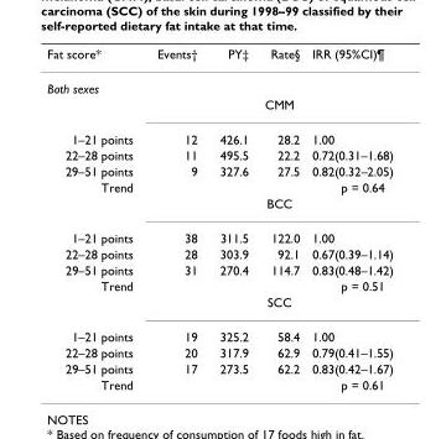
<table><thead><tr><td>Fat score*</td><td>Events†</td><td>PY‡</td><td>Rate§</td><td>IRR (95%CI)¶</td></tr></thead><tbody><tr><td colspan="5">Both sexes</td></tr><tr><td></td><td colspan="4">CMM</td></tr><tr><td>1–21 points</td><td>12</td><td>426.1</td><td>28.2</td><td>1.00</td></tr><tr><td>22–28 points</td><td>11</td><td>495.5</td><td>22.2</td><td>0.72(0.31–1.68)</td></tr><tr><td>29–51 points</td><td>9</td><td>327.6</td><td>27.5</td><td>0.82(0.32–2.05)</td></tr><tr><td rowspan="2">Trend</td><td></td><td></td><td></td><td>p = 0.64</td></tr><tr><td colspan="4">BCC</td></tr><tr><td>1–21 points</td><td>38</td><td>311.5</td><td>122.0</td><td>1.00</td></tr><tr><td>22–28 points</td><td>28</td><td>303.9</td><td>92.1</td><td>0.67(0.39–1.14)</td></tr><tr><td>29–51 points</td><td>31</td><td>270.4</td><td>114.7</td><td>0.83(0.48–1.42)</td></tr><tr><td rowspan="2">Trend</td><td></td><td></td><td></td><td>p = 0.51</td></tr><tr><td colspan="4">SCC</td></tr><tr><td>1–21 points</td><td>19</td><td>325.2</td><td>58.4</td><td>1.00</td></tr><tr><td>22–28 points</td><td>20</td><td>317.9</td><td>62.9</td><td>0.79(0.41–1.55)</td></tr><tr><td>29–51 points</td><td>17</td><td>273.5</td><td>62.2</td><td>0.83(0.42–1.67)</td></tr><tr><td>Trend</td><td></td><td></td><td></td><td>p = 0.61</td></tr></tbody></table>